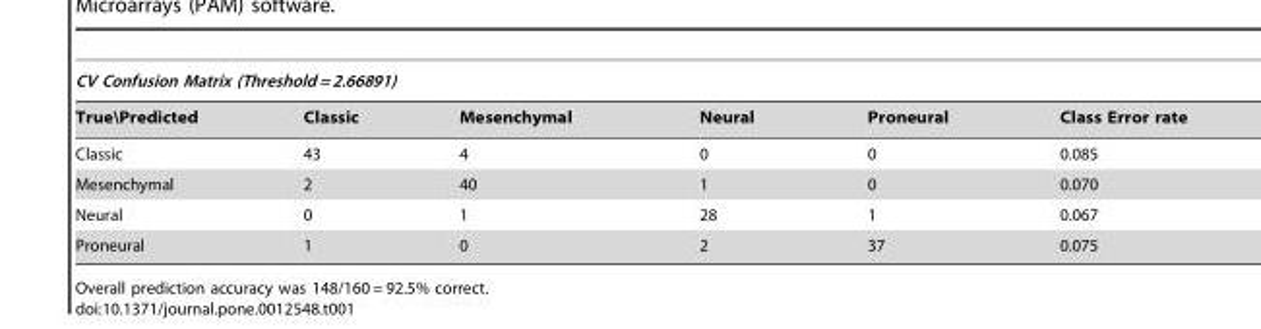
<table><thead><tr><td colspan="6">CV Confusion Matrix (Threshold = 2.66891)</td></tr><tr><td>True\Predicted</td><td>Classic</td><td>Mesenchymal</td><td>Neural</td><td>Proneural</td><td>Class Error rate</td></tr></thead><tbody><tr><td>Classic</td><td>43</td><td>4</td><td>0</td><td>0</td><td>0.085</td></tr><tr><td>Mesenchymal</td><td>2</td><td>40</td><td>1</td><td>0</td><td>0.070</td></tr><tr><td>Neural</td><td>0</td><td>1</td><td>28</td><td>1</td><td>0.067</td></tr><tr><td>Proneural</td><td>1</td><td>0</td><td>2</td><td>37</td><td>0.075</td></tr></tbody></table>